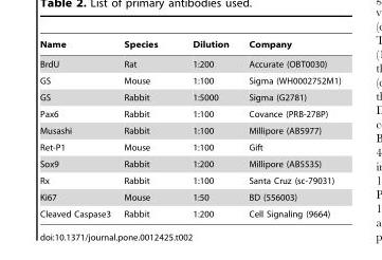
<table><thead><tr><td>Name</td><td>Species</td><td>Dilution</td><td>Company</td></tr></thead><tbody><tr><td>BrdU</td><td>Rat</td><td>1:200</td><td>Accurate (OBT0030)</td></tr><tr><td>GS</td><td>Mouse</td><td>1:100</td><td>Sigma (WH0002752M1)</td></tr><tr><td>GS</td><td>Rabbit</td><td>1:5000</td><td>Sigma (G2781)</td></tr><tr><td>Pax6</td><td>Rabbit</td><td>1:100</td><td>Covance (PRB-278P)</td></tr><tr><td>Musashi</td><td>Rabbit</td><td>1:100</td><td>Millipore (AB5977)</td></tr><tr><td>Ret-P1</td><td>Mouse</td><td>1:100</td><td>Gift</td></tr><tr><td>Sox9</td><td>Rabbit</td><td>1:200</td><td>Millipore (AB5535)</td></tr><tr><td>Rx</td><td>Rabbit</td><td>1:100</td><td>Santa Cruz (sc-79031)</td></tr><tr><td>Ki67</td><td>Mouse</td><td>1:50</td><td>BD (556003)</td></tr><tr><td>Cleaved Caspase3</td><td>Rabbit</td><td>1:200</td><td>Cell Signaling (9664)</td></tr></tbody></table>